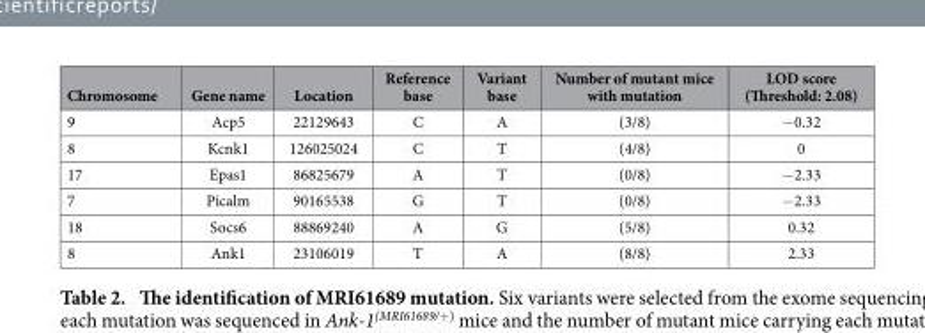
<table><thead><tr><td>Chromosome</td><td>Gene name</td><td>Location</td><td>Reference base</td><td>Variant base</td><td>Number of mutant mice with mutation</td><td>LOD score (Threshold: 2.08)</td></tr></thead><tbody><tr><td>9</td><td>Acp5</td><td>22129643</td><td>C</td><td>A</td><td>(3/8)</td><td>− 0.32</td></tr><tr><td>8</td><td>Kcnk1</td><td>126025024</td><td>C</td><td>T</td><td>(4/8)</td><td>0</td></tr><tr><td>17</td><td>Epas1</td><td>86825679</td><td>A</td><td>T</td><td>(0/8)</td><td>− 2.33</td></tr><tr><td>7</td><td>Picalm</td><td>90165538</td><td>G</td><td>T</td><td>(0/8)</td><td>− 2.33</td></tr><tr><td>18</td><td>Socs6</td><td>88869240</td><td>A</td><td>G</td><td>(5/8)</td><td>0.32</td></tr><tr><td>8</td><td>Ank1</td><td>23106019</td><td>T</td><td>A</td><td>(8/8)</td><td>2.33</td></tr></tbody></table>